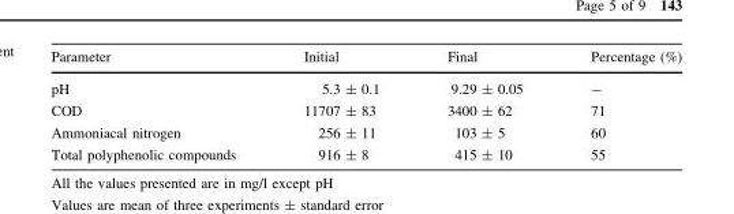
<table><thead><tr><td>Parameter</td><td>Initial</td><td>Final</td><td>Percentage (%)</td></tr></thead><tbody><tr><td>pH</td><td>5.3 ± 0.1</td><td>9.29 ± 0.05</td><td>-</td></tr><tr><td>COD</td><td>11707 ± 83</td><td>3400 ± 62</td><td>71</td></tr><tr><td>Ammoniacal nitrogen</td><td>256 ± 11</td><td>103 ± 5</td><td>60</td></tr><tr><td>Total polyphenolic compounds</td><td>916 ± 8</td><td>415 ± 10</td><td>55</td></tr></tbody></table>